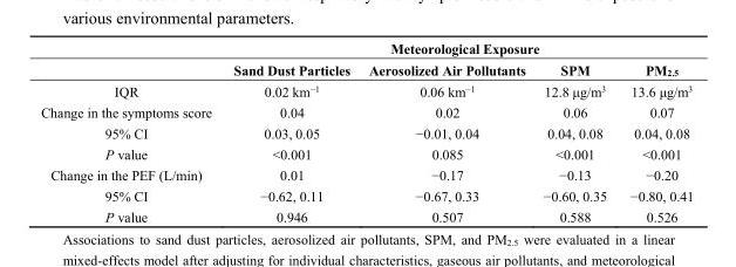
<table><thead><tr><td rowspan="2"></td><td colspan="4">Meteorological Exposure</td></tr><tr><td>Sand Dust Particles</td><td>Aerosolized Air Pollutants</td><td>SPM</td><td>PM<sub>2.5</sub></td></tr></thead><tbody><tr><td>IQR</td><td>0.02 km<sup>−1</sup></td><td>0.06 km<sup>−1</sup></td><td>12.8 μg/m<sup>3</sup></td><td>13.6 μg/m<sup>3</sup></td></tr><tr><td>Change in the symptoms score</td><td>0.04</td><td>0.02</td><td>0.06</td><td>0.07</td></tr><tr><td>95% CI</td><td>0.03, 0.05</td><td>−0.01, 0.04</td><td>0.04, 0.08</td><td>0.04, 0.08</td></tr><tr><td>P value</td><td>&lt;0.001</td><td>0.085</td><td>&lt;0.001</td><td>&lt;0.001</td></tr><tr><td>Change in the PEF (L/min)</td><td>0.01</td><td>−0.17</td><td>−0.13</td><td>−0.20</td></tr><tr><td>95% CI</td><td>−0.62, 0.11</td><td>−0.67, 0.33</td><td>−0.60, 0.35</td><td>−0.80, 0.41</td></tr><tr><td>P value</td><td>0.946</td><td>0.507</td><td>0.588</td><td>0.526</td></tr></tbody></table>